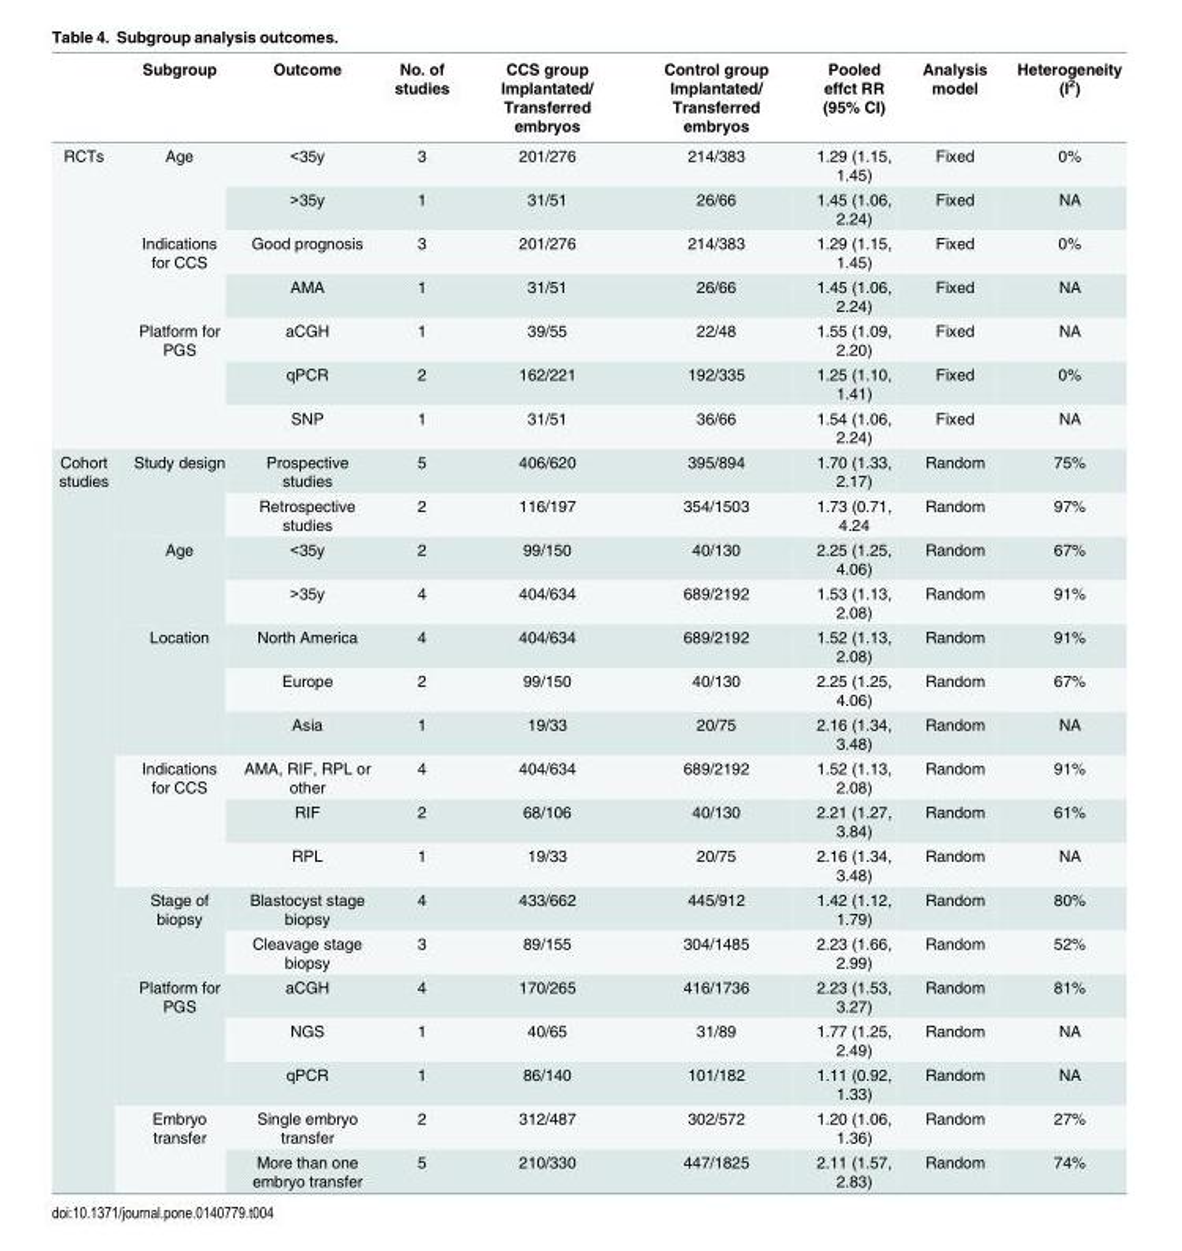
<table><thead><tr><td></td><td>Subgroup</td><td>Outcome</td><td>No. of studies</td><td>CCS group Implantated/ Transferred embryos</td><td>Control group Implantated/ Transferred embryos</td><td>Pooled effct RR (95% CI)</td><td>Analysis model</td><td>Heterogeneity (I<sup>2</sup>)</td></tr></thead><tbody><tr><td rowspan="7">RCTs</td><td rowspan="2">Age</td><td>&lt;35y</td><td>3</td><td>201/276</td><td>214/383</td><td>1.29 (1.15, 1.45)</td><td>Fixed</td><td>0%</td></tr><tr><td>&gt;35y</td><td>1</td><td>31/51</td><td>26/66</td><td>1.45 (1.06, 2.24)</td><td>Fixed</td><td>NA</td></tr><tr><td rowspan="2">Indications for CCS</td><td>Good prognosis</td><td>3</td><td>201/276</td><td>214/383</td><td>1.29 (1.15, 1.45)</td><td>Fixed</td><td>0%</td></tr><tr><td>AMA</td><td>1</td><td>31/51</td><td>26/66</td><td>1.45 (1.06, 2.24)</td><td>Fixed</td><td>NA</td></tr><tr><td rowspan="3">Platform for PGS</td><td>aCGH</td><td>1</td><td>39/55</td><td>22/48</td><td>1.55 (1.09, 2.20)</td><td>Fixed</td><td>NA</td></tr><tr><td>qPCR</td><td>2</td><td>162/221</td><td>192/335</td><td>1.25 (1.10, 1.41)</td><td>Fixed</td><td>0%</td></tr><tr><td>SNP</td><td>1</td><td>31/51</td><td>36/66</td><td>1.54 (1.06, 2.24)</td><td>Fixed</td><td>NA</td></tr><tr><td rowspan="17">Cohort studies</td><td rowspan="2">Study design</td><td>Prospective studies</td><td>5</td><td>406/620</td><td>395/894</td><td>1.70 (1.33, 2.17)</td><td>Random</td><td>75%</td></tr><tr><td>Retrospective studies</td><td>2</td><td>116/197</td><td>354/1503</td><td>1.73 (0.71, 4.24</td><td>Random</td><td>97%</td></tr><tr><td rowspan="2">Age</td><td>&lt;35y</td><td>2</td><td>99/150</td><td>40/130</td><td>2.25 (1.25, 4.06)</td><td>Random</td><td>67%</td></tr><tr><td>&gt;35y</td><td>4</td><td>404/634</td><td>689/2192</td><td>1.53 (1.13, 2.08)</td><td>Random</td><td>91%</td></tr><tr><td rowspan="3">Location</td><td>North America</td><td>4</td><td>404/634</td><td>689/2192</td><td>1.52 (1.13, 2.08)</td><td>Random</td><td>91%</td></tr><tr><td>Europe</td><td>2</td><td>99/150</td><td>40/130</td><td>2.25 (1.25, 4.06)</td><td>Random</td><td>67%</td></tr><tr><td>Asia</td><td>1</td><td>19/33</td><td>20/75</td><td>2.16 (1.34, 3.48)</td><td>Random</td><td>NA</td></tr><tr><td rowspan="3">Indications for CCS</td><td>AMA, RIF, RPL or other</td><td>4</td><td>404/634</td><td>689/2192</td><td>1.52 (1.13, 2.08)</td><td>Random</td><td>91%</td></tr><tr><td>RIF</td><td>2</td><td>68/106</td><td>40/130</td><td>2.21 (1.27, 3.84)</td><td>Random</td><td>61%</td></tr><tr><td>RPL</td><td>1</td><td>19/33</td><td>20/75</td><td>2.16 (1.34, 3.48)</td><td>Random</td><td>NA</td></tr><tr><td rowspan="2">Stage of biopsy</td><td>Blastocyst stage biopsy</td><td>4</td><td>433/662</td><td>445/912</td><td>1.42 (1.12, 1.79)</td><td>Random</td><td>80%</td></tr><tr><td>Cleavage stage biopsy</td><td>3</td><td>89/155</td><td>304/1485</td><td>2.23 (1.66, 2.99)</td><td>Random</td><td>52%</td></tr><tr><td rowspan="3">Platform for PGS</td><td>aCGH</td><td>4</td><td>170/265</td><td>416/1736</td><td>2.23 (1.53, 3.27)</td><td>Random</td><td>81%</td></tr><tr><td>NGS</td><td>1</td><td>40/65</td><td>31/89</td><td>1.77 (1.25, 2.49)</td><td>Random</td><td>NA</td></tr><tr><td>qPCR</td><td>1</td><td>86/140</td><td>101/182</td><td>1.11 (0.92, 1.33)</td><td>Random</td><td>NA</td></tr><tr><td rowspan="2">Embryo transfer</td><td>Single embryo transfer</td><td>2</td><td>312/487</td><td>302/572</td><td>1.20 (1.06, 1.36)</td><td>Random</td><td>27%</td></tr><tr><td>More than one embryo transfer</td><td>5</td><td>210/330</td><td>447/1825</td><td>2.11 (1.57, 2.83)</td><td>Random</td><td>74%</td></tr></tbody></table>